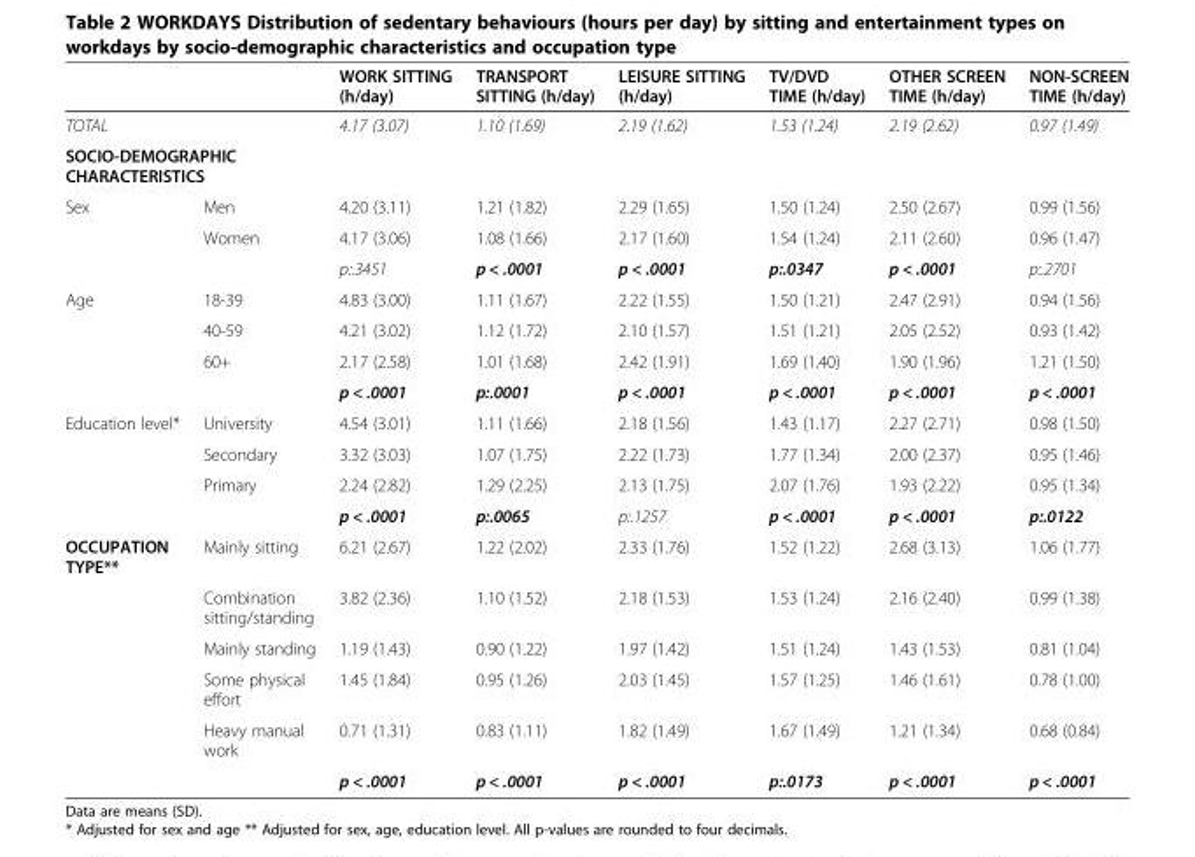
<table><thead><tr><td></td><td></td><td>WORK SITTING (h/day)</td><td>TRANSPORT SITTING (h/day)</td><td>LEISURE SITTING (h/day)</td><td>TV/DVD TIME (h/day)</td><td>OTHER SCREEN TIME (h/day)</td><td>NON-SCREEN TIME (h/day)</td></tr></thead><tbody><tr><td colspan="2">TOTAL</td><td>4.17 (3.07)</td><td>1.10 (1.69)</td><td>2.19 (1.62)</td><td>1.53 (1.24)</td><td>2.19 (2.62)</td><td>0.97 (1.49)</td></tr><tr><td colspan="8">SOCIO-DEMOGRAPHIC CHARACTERISTICS</td></tr><tr><td rowspan="3">Sex</td><td>Men</td><td>4.20 (3.11)</td><td>1.21 (1.82)</td><td>2.29 (1.65)</td><td>1.50 (1.24)</td><td>2.50 (2.67)</td><td>0.99 (1.56)</td></tr><tr><td>Women</td><td>4.17 (3.06)</td><td>1.08 (1.66)</td><td>2.17 (1.60)</td><td>1.54 (1.24)</td><td>2.11 (2.60)</td><td>0.96 (1.47)</td></tr><tr><td></td><td>p:.3451</td><td>p &lt; .0001</td><td>p &lt; .0001</td><td>p:.0347</td><td>p &lt; .0001</td><td>p:.2701</td></tr><tr><td rowspan="4">Age</td><td>18-39</td><td>4.83 (3.00)</td><td>1.11 (1.67)</td><td>2.22 (1.55)</td><td>1.50 (1.21)</td><td>2.47 (2.91)</td><td>0.94 (1.56)</td></tr><tr><td>40-59</td><td>4.21 (3.02)</td><td>1.12 (1.72)</td><td>2.10 (1.57)</td><td>1.51 (1.21)</td><td>2.05 (2.52)</td><td>0.93 (1.42)</td></tr><tr><td>60+</td><td>2.17 (2.58)</td><td>1.01 (1.68)</td><td>2.42 (1.91)</td><td>1.69 (1.40)</td><td>1.90 (1.96)</td><td>1.21 (1.50)</td></tr><tr><td></td><td>p &lt; .0001</td><td>p:.0001</td><td>p &lt; .0001</td><td>p &lt; .0001</td><td>p &lt; .0001</td><td>p &lt; .0001</td></tr><tr><td rowspan="4">Education level*</td><td>University</td><td>4.54 (3.01)</td><td>1.11 (1.66)</td><td>2.18 (1.56)</td><td>1.43 (1.17)</td><td>2.27 (2.71)</td><td>0.98 (1.50)</td></tr><tr><td>Secondary</td><td>3.32 (3.03)</td><td>1.07 (1.75)</td><td>2.22 (1.73)</td><td>1.77 (1.34)</td><td>2.00 (2.37)</td><td>0.95 (1.46)</td></tr><tr><td>Primary</td><td>2.24 (2.82)</td><td>1.29 (2.25)</td><td>2.13 (1.75)</td><td>2.07 (1.76)</td><td>1.93 (2.22)</td><td>0.95 (1.34)</td></tr><tr><td></td><td>p &lt; .0001</td><td>p:.0065</td><td>p:.1257</td><td>p &lt; .0001</td><td>p &lt; .0001</td><td>p:.0122</td></tr><tr><td rowspan="6">OCCUPATION TYPE**</td><td>Mainly sitting</td><td>6.21 (2.67)</td><td>1.22 (2.02)</td><td>2.33 (1.76)</td><td>1.52 (1.22)</td><td>2.68 (3.13)</td><td>1.06 (1.77)</td></tr><tr><td>Combination sitting/standing</td><td>3.82 (2.36)</td><td>1.10 (1.52)</td><td>2.18 (1.53)</td><td>1.53 (1.24)</td><td>2.16 (2.40)</td><td>0.99 (1.38)</td></tr><tr><td>Mainly standing</td><td>1.19 (1.43)</td><td>0.90 (1.22)</td><td>1.97 (1.42)</td><td>1.51 (1.24)</td><td>1.43 (1.53)</td><td>0.81 (1.04)</td></tr><tr><td>Some physical effort</td><td>1.45 (1.84)</td><td>0.95 (1.26)</td><td>2.03 (1.45)</td><td>1.57 (1.25)</td><td>1.46 (1.61)</td><td>0.78 (1.00)</td></tr><tr><td>Heavy manual work</td><td>0.71 (1.31)</td><td>0.83 (1.11)</td><td>1.82 (1.49)</td><td>1.67 (1.49)</td><td>1.21 (1.34)</td><td>0.68 (0.84)</td></tr><tr><td></td><td>p &lt; .0001</td><td>p &lt; .0001</td><td>p &lt; .0001</td><td>p:.0173</td><td>p &lt; .0001</td><td>p &lt; .0001</td></tr></tbody></table>